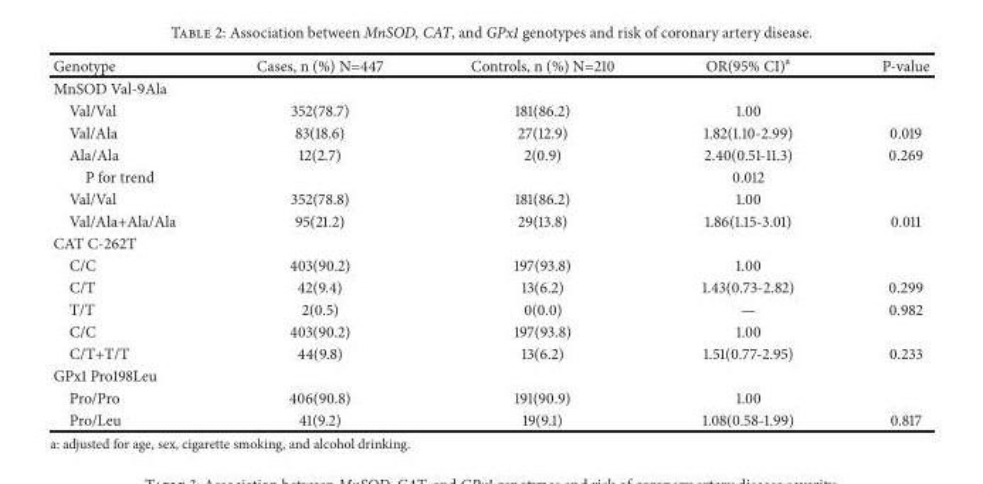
<table><thead><tr><td>Genotype</td><td>Cases, n (%) N=447</td><td>Controls, n (%) N=210</td><td>OR(95% CI)<sup>a</sup></td><td>P-value</td></tr></thead><tbody><tr><td colspan="5">MnSOD Val-9Ala</td></tr><tr><td>Val/Val</td><td>352(78.7)</td><td>181(86.2)</td><td>1.00</td><td></td></tr><tr><td>Val/Ala</td><td>83(18.6)</td><td>27(12.9)</td><td>1.82(1.10-2.99)</td><td>0.019</td></tr><tr><td>Ala/Ala</td><td>12(2.7)</td><td>2(0.9)</td><td>2.40(0.51-11.3)</td><td>0.269</td></tr><tr><td>P for trend</td><td></td><td></td><td>0.012</td><td></td></tr><tr><td>Val/Val</td><td>352(78.8)</td><td>181(86.2)</td><td>1.00</td><td></td></tr><tr><td>Val/Ala+Ala/Ala</td><td>95(21.2)</td><td>29(13.8)</td><td>1.86(1.15-3.01)</td><td>0.011</td></tr><tr><td colspan="5">CAT C-262T</td></tr><tr><td>C/C</td><td>403(90.2)</td><td>197(93.8)</td><td>1.00</td><td></td></tr><tr><td>C/T</td><td>42(9.4)</td><td>13(6.2)</td><td>1.43(0.73-2.82)</td><td>0.299</td></tr><tr><td>T/T</td><td>2(0.5)</td><td>0(0.0)</td><td>—</td><td>0.982</td></tr><tr><td>C/C</td><td>403(90.2)</td><td>197(93.8)</td><td>1.00</td><td></td></tr><tr><td>C/T+T/T</td><td>44(9.8)</td><td>13(6.2)</td><td>1.51(0.77-2.95)</td><td>0.233</td></tr><tr><td colspan="5">GPx1 Pro198Leu</td></tr><tr><td>Pro/Pro</td><td>406(90.8)</td><td>191(90.9)</td><td>1.00</td><td></td></tr><tr><td>Pro/Leu</td><td>41(9.2)</td><td>19(9.1)</td><td>1.08(0.58-1.99)</td><td>0.817</td></tr></tbody></table>